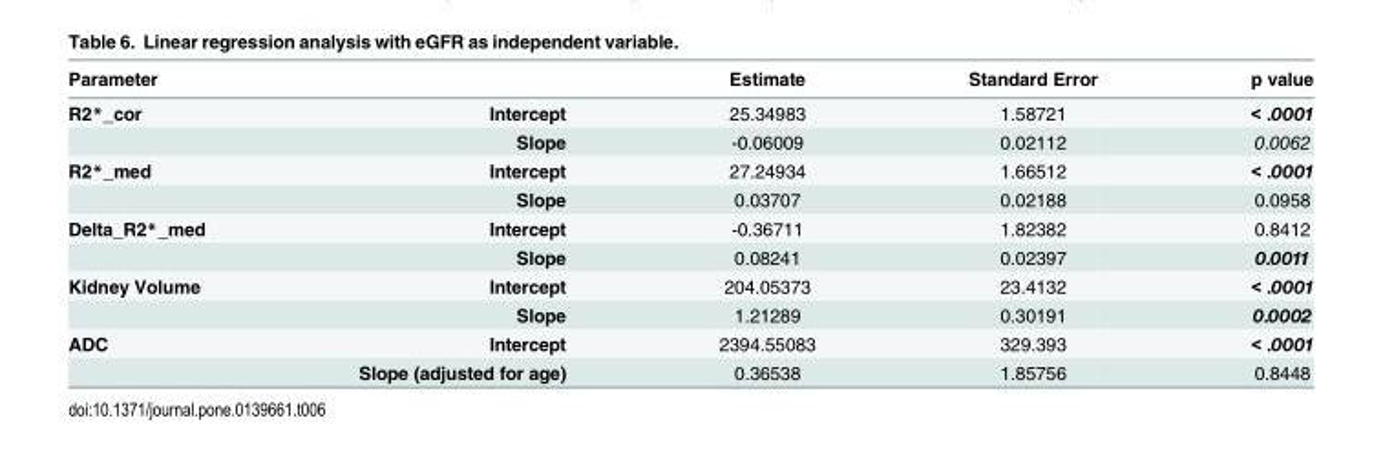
<table><thead><tr><td>Parameter</td><td></td><td>Estimate</td><td>Standard Error</td><td>p value</td></tr></thead><tbody><tr><td rowspan="2">R2*_cor</td><td>Intercept</td><td>25.34983</td><td>1.58721</td><td>&lt; .0001</td></tr><tr><td>Slope</td><td>-0.06009</td><td>0.02112</td><td>0.0062</td></tr><tr><td rowspan="2">R2*_med</td><td>Intercept</td><td>27.24934</td><td>1.66512</td><td>&lt; .0001</td></tr><tr><td>Slope</td><td>0.03707</td><td>0.02188</td><td>0.0958</td></tr><tr><td rowspan="2">Delta_R2*_med</td><td>Intercept</td><td>-0.36711</td><td>1.82382</td><td>0.8412</td></tr><tr><td>Slope</td><td>0.08241</td><td>0.02397</td><td>0.0011</td></tr><tr><td rowspan="2">Kidney Volume</td><td>Intercept</td><td>204.05373</td><td>23.4132</td><td>&lt; .0001</td></tr><tr><td>Slope</td><td>1.21289</td><td>0.30191</td><td>0.0002</td></tr><tr><td rowspan="2">ADC</td><td>Intercept</td><td>2394.55083</td><td>329.393</td><td>&lt; .0001</td></tr><tr><td>Slope (adjusted for age)</td><td>0.36538</td><td>1.85756</td><td>0.8448</td></tr></tbody></table>